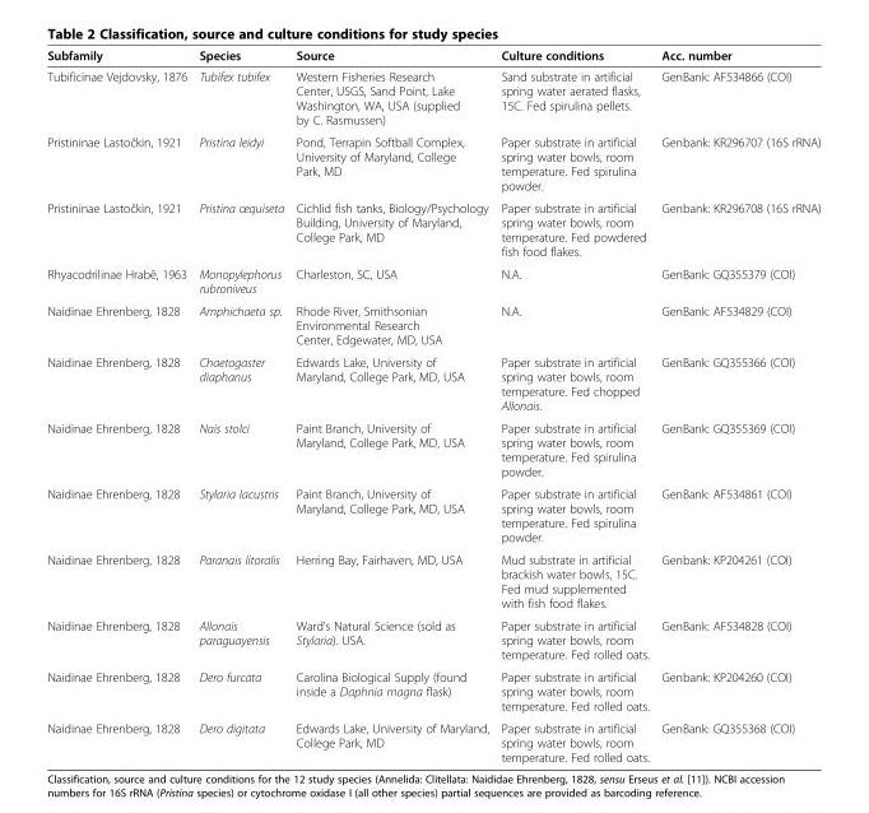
<table><thead><tr><td>Subfamily</td><td>Species</td><td>Source</td><td>Culture conditions</td><td>Acc. number</td></tr></thead><tbody><tr><td>Tubificinae Vejdovsky, 1876</td><td>Tubifex tubifex</td><td>Western Fisheries Research Center, USGS, Sand Point, Lake Washington, WA, USA (supplied by C. Rasmussen)</td><td>Sand substrate in artificial spring water aerated flasks, 15C. Fed spirulina pellets.</td><td>GenBank: AF534866 (COI)</td></tr><tr><td>Pristininae Lastočkin, 1921</td><td>Pristina leidyi</td><td>Pond, Terrapin Softball Complex, University of Maryland, College Park, MD</td><td>Paper substrate in artificial spring water bowls, room temperature. Fed spirulina powder.</td><td>Genbank: KR296707 (16S rRNA)</td></tr><tr><td>Pristininae Lastočkin, 1921</td><td>Pristina œquiseta</td><td>Cichlid fish tanks, Biology/Psychology Building, University of Maryland, College Park, MD</td><td>Paper substrate in artificial spring water bowls, room temperature. Fed powdered fish food flakes.</td><td>Genbank: KR296708 (16S rRNA)</td></tr><tr><td>Rhyacodrilinae Hrabě, 1963</td><td>Monopylephorus rubroniveus</td><td>Charleston, SC, USA</td><td>N.A.</td><td>GenBank: GQ355379 (COI)</td></tr><tr><td>Naidinae Ehrenberg, 1828</td><td>Amphichaeta sp.</td><td>Rhode River, Smithsonian Environmental Research Center, Edgewater, MD, USA</td><td>N.A.</td><td>GenBank: AF534829 (COI)</td></tr><tr><td>Naidinae Ehrenberg, 1828</td><td>Chaetogaster diaphanus</td><td>Edwards Lake, University of Maryland, College Park, MD, USA</td><td>Paper substrate in artificial spring water bowls, room temperature. Fed chopped Allonais.</td><td>GenBank: GQ355366 (COI)</td></tr><tr><td>Naidinae Ehrenberg, 1828</td><td>Nais stolci</td><td>Paint Branch, University of Maryland, College Park, MD, USA</td><td>Paper substrate in artificial spring water bowls, room temperature. Fed spirulina powder.</td><td>GenBank: GQ355369 (COI)</td></tr><tr><td>Naidinae Ehrenberg, 1828</td><td>Stylaria lacustris</td><td>Paint Branch, University of Maryland, College Park, MD, USA</td><td>Paper substrate in artificial spring water bowls, room temperature. Fed spirulina powder.</td><td>GenBank: AF534861 (COI)</td></tr><tr><td>Naidinae Ehrenberg, 1828</td><td>Paranais litoralis</td><td>Herring Bay, Fairhaven, MD, USA</td><td>Mud substrate in artificial brackish water bowls, 15C. Fed mud supplemented with fish food flakes.</td><td>Genbank: KP204261 (COI)</td></tr><tr><td>Naidinae Ehrenberg, 1828</td><td>Allonais paraguayensis</td><td>Ward’s Natural Science (sold as Stylaria). USA.</td><td>Paper substrate in artificial spring water bowls, room temperature. Fed rolled oats.</td><td>GenBank: AF534828 (COI)</td></tr><tr><td>Naidinae Ehrenberg, 1828</td><td>Dero furcata</td><td>Carolina Biological Supply (found inside a Daphnia magna flask)</td><td>Paper substrate in artificial spring water bowls, room temperature. Fed rolled oats.</td><td>Genbank: KP204260 (COI)</td></tr><tr><td>Naidinae Ehrenberg, 1828</td><td>Dero digitata</td><td>Edwards Lake, University of Maryland, College Park, MD</td><td>Paper substrate in artificial spring water bowls, room temperature. Fed rolled oats.</td><td>GenBank: GQ355368 (COI)</td></tr></tbody></table>